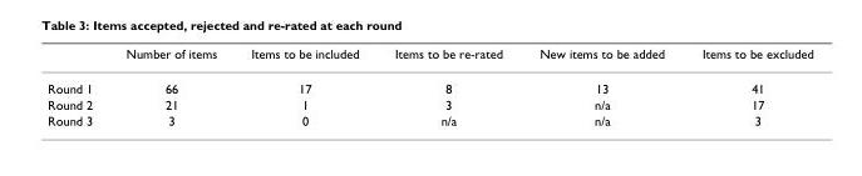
<table><thead><tr><td></td><td>Number of items</td><td>Items to be included</td><td>Items to be re-rated</td><td>New items to be added</td><td>Items to be excluded</td></tr></thead><tbody><tr><td>Round 1</td><td>66</td><td>17</td><td>8</td><td>13</td><td>41</td></tr><tr><td>Round 2</td><td>21</td><td>1</td><td>3</td><td>n/a</td><td>17</td></tr><tr><td>Round 3</td><td>3</td><td>0</td><td>n/a</td><td>n/a</td><td>3</td></tr></tbody></table>